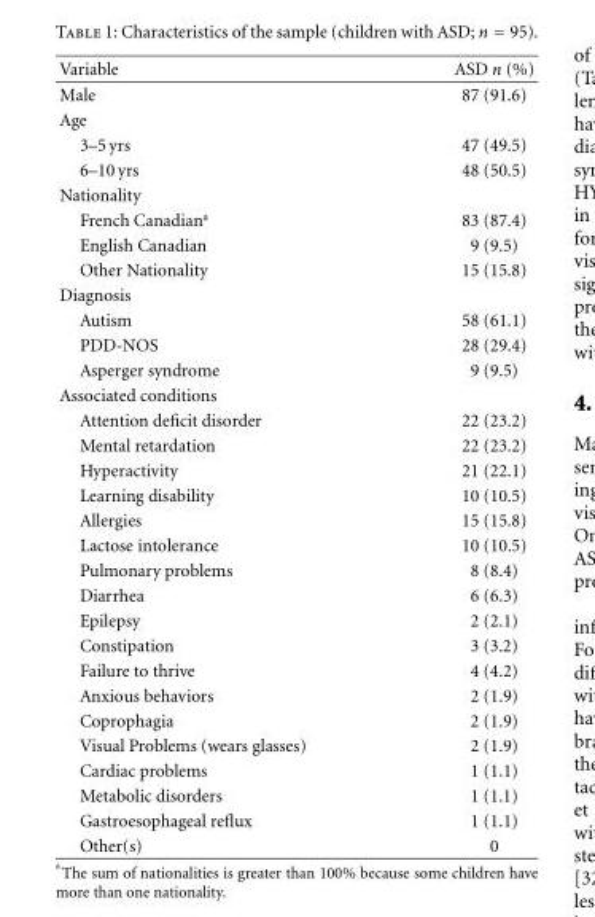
<table><thead><tr><td>Variable</td><td>ASD n (%)</td></tr></thead><tbody><tr><td>Male</td><td>87 (91.6)</td></tr><tr><td colspan="2">Age</td></tr><tr><td>3–5 yrs</td><td>47 (49.5)</td></tr><tr><td>6–10 yrs</td><td>48 (50.5)</td></tr><tr><td colspan="2">Nationality</td></tr><tr><td>French Canadian<sup>a</sup></td><td>83 (87.4)</td></tr><tr><td>English Canadian</td><td>9 (9.5)</td></tr><tr><td>Other Nationality</td><td>15 (15.8)</td></tr><tr><td colspan="2">Diagnosis</td></tr><tr><td>Autism</td><td>58 (61.1)</td></tr><tr><td>PDD-NOS</td><td>28 (29.4)</td></tr><tr><td>Asperger syndrome</td><td>9 (9.5)</td></tr><tr><td colspan="2">Associated conditions</td></tr><tr><td>Attention deficit disorder</td><td>22 (23.2)</td></tr><tr><td>Mental retardation</td><td>22 (23.2)</td></tr><tr><td>Hyperactivity</td><td>21 (22.1)</td></tr><tr><td>Learning disability</td><td>10 (10.5)</td></tr><tr><td>Allergies</td><td>15 (15.8)</td></tr><tr><td>Lactose intolerance</td><td>10 (10.5)</td></tr><tr><td>Pulmonary problems</td><td>8 (8.4)</td></tr><tr><td>Diarrhea</td><td>6 (6.3)</td></tr><tr><td>Epilepsy</td><td>2 (2.1)</td></tr><tr><td>Constipation</td><td>3 (3.2)</td></tr><tr><td>Failure to thrive</td><td>4 (4.2)</td></tr><tr><td>Anxious behaviors</td><td>2 (1.9)</td></tr><tr><td>Coprophagia</td><td>2 (1.9)</td></tr><tr><td>Visual Problems (wears glasses)</td><td>2 (1.9)</td></tr><tr><td>Cardiac problems</td><td>1 (1.1)</td></tr><tr><td>Metabolic disorders</td><td>1 (1.1)</td></tr><tr><td>Gastroesophageal reflux</td><td>1 (1.1)</td></tr><tr><td>Other(s)</td><td>0</td></tr></tbody></table>